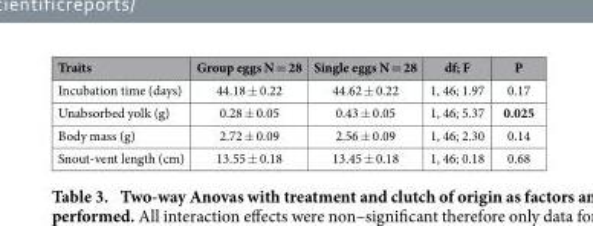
<table><thead><tr><td>Traits</td><td>Group eggs N = 28</td><td>Single eggs N = 28</td><td>df; F</td><td>P</td></tr></thead><tbody><tr><td>Incubation time (days)</td><td>44.18 ± 0.22</td><td>44.62 ± 0.22</td><td>1, 46; 1.97</td><td>0.17</td></tr><tr><td>Unabsorbed yolk (g)</td><td>0.28 ± 0.05</td><td>0.43 ± 0.05</td><td>1, 46; 5.37</td><td>0.025</td></tr><tr><td>Body mass (g)</td><td>2.72 ± 0.09</td><td>2.56 ± 0.09</td><td>1, 46; 2.30</td><td>0.14</td></tr><tr><td>Snout-vent length (cm)</td><td>13.55 ± 0.18</td><td>13.45 ± 0.18</td><td>1, 46; 0.18</td><td>0.68</td></tr></tbody></table>